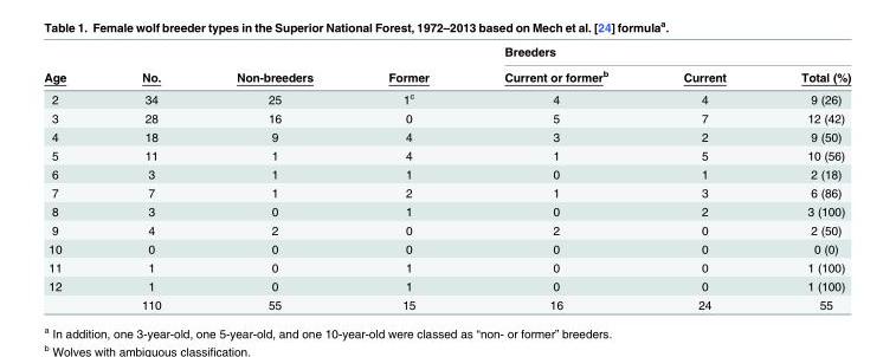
<table><thead><tr><td rowspan="2">Age</td><td rowspan="2">No.</td><td rowspan="2">Non-breeders</td><td rowspan="2">Former</td><td colspan="3">Breeders</td></tr><tr><td>Current or former<sup>b</sup></td><td>Current</td><td>Total (%)</td></tr></thead><tbody><tr><td>2</td><td>34</td><td>25</td><td>1<sup>c</sup></td><td>4</td><td>4</td><td>9 (26)</td></tr><tr><td>3</td><td>28</td><td>16</td><td>0</td><td>5</td><td>7</td><td>12 (42)</td></tr><tr><td>4</td><td>18</td><td>9</td><td>4</td><td>3</td><td>2</td><td>9 (50)</td></tr><tr><td>5</td><td>11</td><td>1</td><td>4</td><td>1</td><td>5</td><td>10 (56)</td></tr><tr><td>6</td><td>3</td><td>1</td><td>1</td><td>0</td><td>1</td><td>2 (18)</td></tr><tr><td>7</td><td>7</td><td>1</td><td>2</td><td>1</td><td>3</td><td>6 (86)</td></tr><tr><td>8</td><td>3</td><td>0</td><td>1</td><td>0</td><td>2</td><td>3 (100)</td></tr><tr><td>9</td><td>4</td><td>2</td><td>0</td><td>2</td><td>0</td><td>2 (50)</td></tr><tr><td>10</td><td>0</td><td>0</td><td>0</td><td>0</td><td>0</td><td>0 (0)</td></tr><tr><td>11</td><td>1</td><td>0</td><td>1</td><td>0</td><td>0</td><td>1 (100)</td></tr><tr><td rowspan="2">12</td><td>1</td><td>0</td><td>1</td><td>0</td><td>0</td><td>1 (100)</td></tr><tr><td>110</td><td>55</td><td>15</td><td>16</td><td>24</td><td>55</td></tr></tbody></table>